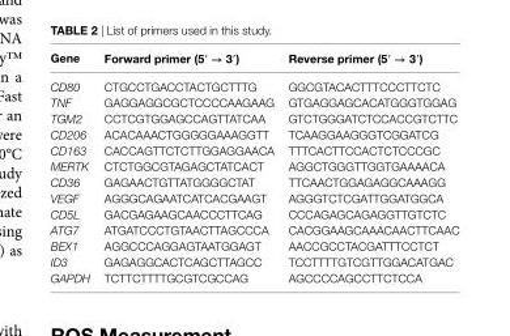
<table><thead><tr><td>gene</td><td>Forward primer (5′ → 3′)</td><td>reverse primer (5′ → 3′)</td></tr></thead><tbody><tr><td>CD80</td><td>CTGCCTGACCTACTGCTTTG</td><td>GGCGTACACTTTCCCTTCTC</td></tr><tr><td>TNF</td><td>GAGGAGGCGCTCCCCAAGAAG</td><td>GTGAGGAGCACATGGGTGGAG</td></tr><tr><td>TGM2</td><td>CCTCGTGGAGCCAGTTATCAA</td><td>GTCTGGGATCTCCACCGTCTTC</td></tr><tr><td>CD206</td><td>ACACAAACTGGGGGAAAGGTT</td><td>TCAAGGAAGGGTCGGATCG</td></tr><tr><td>CD163</td><td>CACCAGTTCTCTTGGAGGAACA</td><td>TTTCACTTCCACTCTCCCGC</td></tr><tr><td>MERTK</td><td>CTCTGGCGTAGAGCTATCACT</td><td>AGGCTGGGTTGGTGAAAACA</td></tr><tr><td>CD36</td><td>GAGAACTGTTATGGGGCTAT</td><td>TTCAACTGGAGAGGCAAAGG</td></tr><tr><td>VEGF</td><td>AGGGCAGAATCATCACGAAGT</td><td>AGGGTCTCGATTGGATGGCA</td></tr><tr><td>CD5L</td><td>GACGAGAAGCAACCCTTCAG</td><td>CCCAGAGCAGAGGTTGTCTC</td></tr><tr><td>ATG7</td><td>ATGATCCCTGTAACTTAGCCCA</td><td>CACGGAAGCAAACAACTTCAAC</td></tr><tr><td>BEX1</td><td>AGGCCCAGGAGTAATGGAGT</td><td>AACCGCCTACGATTTCCTCT</td></tr><tr><td>ID3</td><td>GAGAGGCACTCAGCTTAGCC</td><td>TCCTTTTGTCGTTGGACATGAC</td></tr><tr><td>GAPDH</td><td>TCTTCTTTTGCGTCGCCAG</td><td>AGCCCCAGCCTTCTCCA</td></tr></tbody></table>